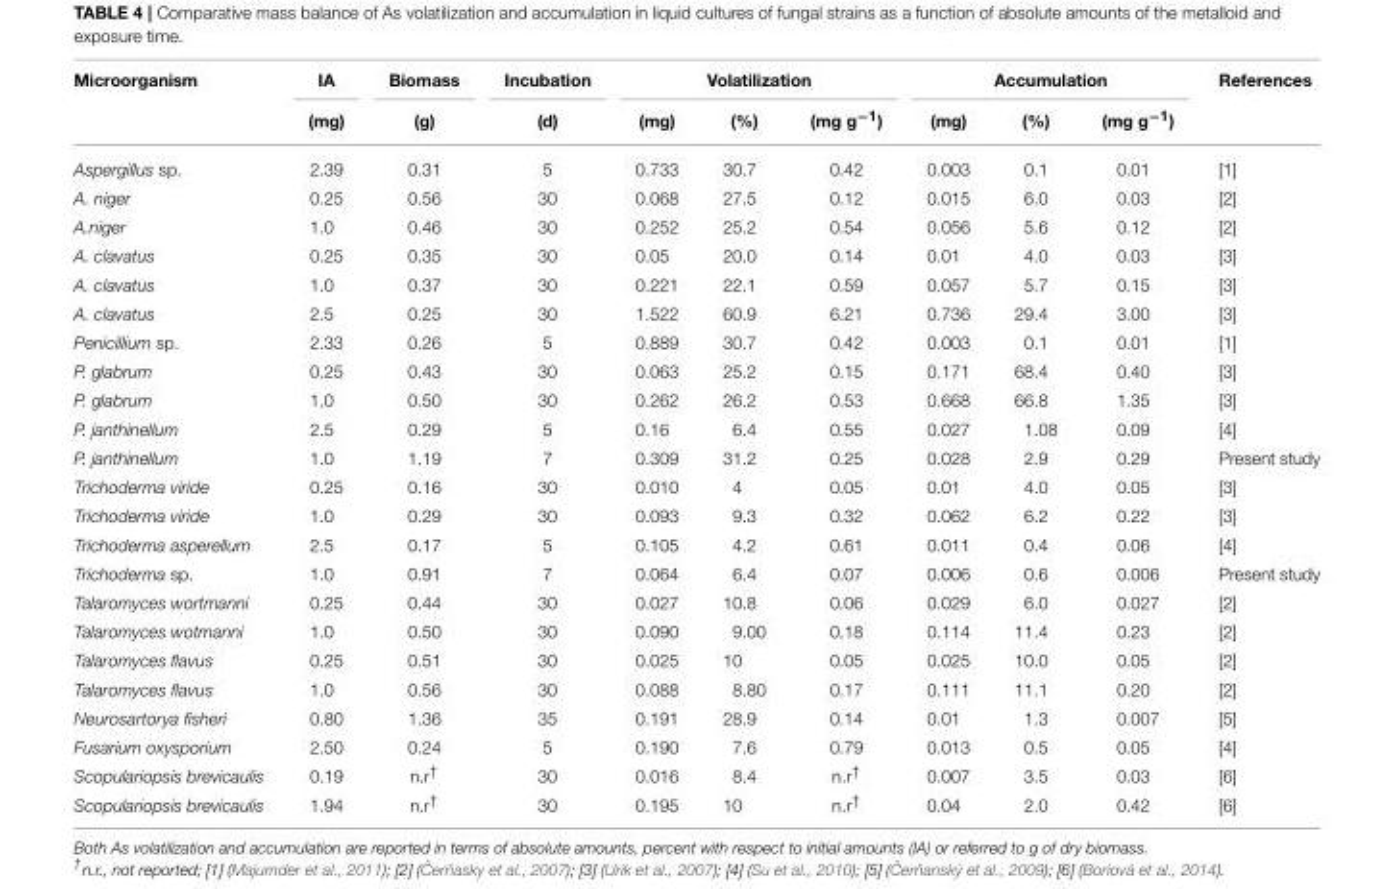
<table><thead><tr><td rowspan="2">Microorganism</td><td rowspan="2">IA (mg)</td><td rowspan="2">Biomass (g)</td><td rowspan="2">Incubation (d)</td><td colspan="3">Volatilization</td><td colspan="3">Accumulation</td><td rowspan="2">References</td></tr><tr><td>(mg)</td><td>(%)</td><td>(mg g<sup>−1</sup>)</td><td>(mg)</td><td>(%)</td><td>(mg g<sup>−1</sup>)</td></tr></thead><tbody><tr><td>Aspergillus sp.</td><td>2.39</td><td>0.31</td><td>5</td><td>0.733</td><td>30.7</td><td>0.42</td><td>0.003</td><td>0.1</td><td>0.01</td><td>[1]</td></tr><tr><td>A. niger</td><td>0.25</td><td>0.56</td><td>30</td><td>0.068</td><td>27.5</td><td>0.12</td><td>0.015</td><td>6.0</td><td>0.03</td><td>[2]</td></tr><tr><td>A.niger</td><td>1.0</td><td>0.46</td><td>30</td><td>0.252</td><td>25.2</td><td>0.54</td><td>0.056</td><td>5.6</td><td>0.12</td><td>[2]</td></tr><tr><td>A. clavatus</td><td>0.25</td><td>0.35</td><td>30</td><td>0.05</td><td>20.0</td><td>0.14</td><td>0.01</td><td>4.0</td><td>0.03</td><td>[3]</td></tr><tr><td>A. clavatus</td><td>1.0</td><td>0.37</td><td>30</td><td>0.221</td><td>22.1</td><td>0.59</td><td>0.057</td><td>5.7</td><td>0.15</td><td>[3]</td></tr><tr><td>A. clavatus</td><td>2.5</td><td>0.25</td><td>30</td><td>1.522</td><td>60.9</td><td>6.21</td><td>0.736</td><td>29.4</td><td>3.00</td><td>[3]</td></tr><tr><td>Penicillium sp.</td><td>2.33</td><td>0.26</td><td>5</td><td>0.889</td><td>30.7</td><td>0.42</td><td>0.003</td><td>0.1</td><td>0.01</td><td>[1]</td></tr><tr><td>P. glabrum</td><td>0.25</td><td>0.43</td><td>30</td><td>0.063</td><td>25.2</td><td>0.15</td><td>0.171</td><td>68.4</td><td>0.40</td><td>[3]</td></tr><tr><td>P. glabrum</td><td>1.0</td><td>0.50</td><td>30</td><td>0.262</td><td>26.2</td><td>0.53</td><td>0.668</td><td>66.8</td><td>1.35</td><td>[3]</td></tr><tr><td>P. janthinellum</td><td>2.5</td><td>0.29</td><td>5</td><td>0.16</td><td>6.4</td><td>0.55</td><td>0.027</td><td>1.08</td><td>0.09</td><td>[4]</td></tr><tr><td>P. janthinellum</td><td>1.0</td><td>1.19</td><td>7</td><td>0.309</td><td>31.2</td><td>0.25</td><td>0.028</td><td>2.9</td><td>0.29</td><td>Present study</td></tr><tr><td>Trichoderma viride</td><td>0.25</td><td>0.16</td><td>30</td><td>0.010</td><td>4</td><td>0.05</td><td>0.01</td><td>4.0</td><td>0.05</td><td>[3]</td></tr><tr><td>Trichoderma viride</td><td>1.0</td><td>0.29</td><td>30</td><td>0.093</td><td>9.3</td><td>0.32</td><td>0.062</td><td>6.2</td><td>0.22</td><td>[3]</td></tr><tr><td>Trichoderma asperellum</td><td>2.5</td><td>0.17</td><td>5</td><td>0.105</td><td>4.2</td><td>0.61</td><td>0.011</td><td>0.4</td><td>0.06</td><td>[4]</td></tr><tr><td>Trichoderma sp.</td><td>1.0</td><td>0.91</td><td>7</td><td>0.064</td><td>6.4</td><td>0.07</td><td>0.006</td><td>0.6</td><td>0.006</td><td>Present study</td></tr><tr><td>Talaromyces wortmanni</td><td>0.25</td><td>0.44</td><td>30</td><td>0.027</td><td>10.8</td><td>0.06</td><td>0.029</td><td>6.0</td><td>0.027</td><td>[2]</td></tr><tr><td>Talaromyces wotmanni</td><td>1.0</td><td>0.50</td><td>30</td><td>0.090</td><td>9.00</td><td>0.18</td><td>0.114</td><td>11.4</td><td>0.23</td><td>[2]</td></tr><tr><td>Talaromyces flavus</td><td>0.25</td><td>0.51</td><td>30</td><td>0.025</td><td>10</td><td>0.05</td><td>0.025</td><td>10.0</td><td>0.05</td><td>[2]</td></tr><tr><td>Talaromyces flavus</td><td>1.0</td><td>0.56</td><td>30</td><td>0.088</td><td>8.80</td><td>0.17</td><td>0.111</td><td>11.1</td><td>0.20</td><td>[2]</td></tr><tr><td>Neurosartorya fisheri</td><td>0.80</td><td>1.36</td><td>35</td><td>0.191</td><td>28.9</td><td>0.14</td><td>0.01</td><td>1.3</td><td>0.007</td><td>[5]</td></tr><tr><td>Fusarium oxysporium</td><td>2.50</td><td>0.24</td><td>5</td><td>0.190</td><td>7.6</td><td>0.79</td><td>0.013</td><td>0.5</td><td>0.05</td><td>[4]</td></tr><tr><td>Scopulariopsis brevicaulis</td><td>0.19</td><td>n.r<sup>†</sup></td><td>30</td><td>0.016</td><td>8.4</td><td>n.r<sup>†</sup></td><td>0.007</td><td>3.5</td><td>0.03</td><td>[6]</td></tr><tr><td>Scopulariopsis brevicaulis</td><td>1.94</td><td>n.r<sup>†</sup></td><td>30</td><td>0.195</td><td>10</td><td>n.r<sup>†</sup></td><td>0.04</td><td>2.0</td><td>0.42</td><td>[6]</td></tr></tbody></table>